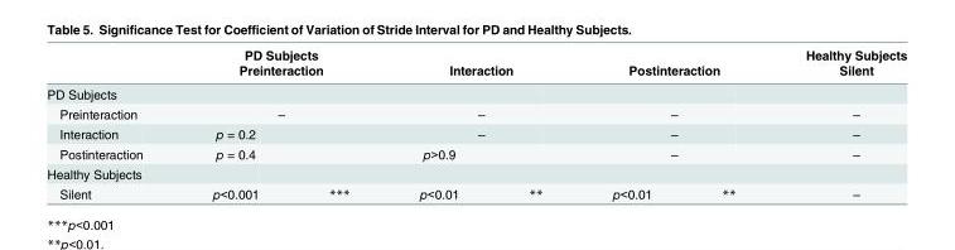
<table><thead><tr><td rowspan="5">PD Subjects Preinteraction Interaction</td><td rowspan="4" colspan="2">PD Subjects Preinteraction –</td><td></td><td></td><td></td><td></td><td rowspan="5">Healthy Subjects Silent – –</td></tr><tr><td rowspan="4" colspan="2">Interaction – –</td><td rowspan="4" colspan="2">Postinteraction – –</td></tr><tr></tr><tr></tr><tr><td>p = 0.2</td><td></td></tr></thead><tbody><tr><td>Postinteraction</td><td>p = 0.4</td><td></td><td>p&gt;0.9</td><td></td><td colspan="2">–</td><td>–</td></tr><tr><td colspan="8">Healthy Subjects</td></tr><tr><td>Silent</td><td>p&lt;0.001</td><td>***</td><td>p&lt;0.01</td><td>**</td><td>p&lt;0.01</td><td>**</td><td>–</td></tr></tbody></table>